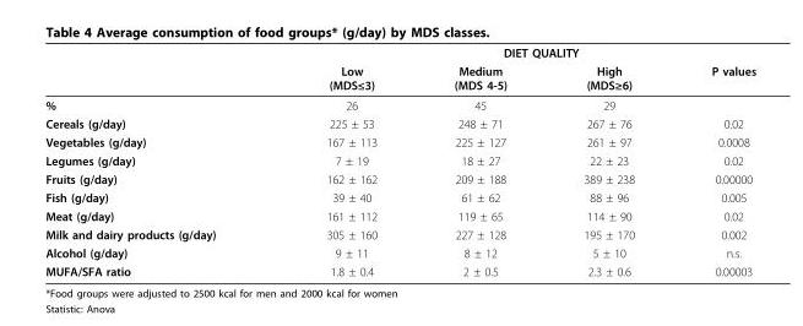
<table><thead><tr><td rowspan="2"></td><td colspan="4">DIET QUALITY</td></tr><tr><td>Low (MDS≤3)</td><td>Medium (MDS 4-5)</td><td>High (MDS≥6)</td><td>P values</td></tr></thead><tbody><tr><td>%</td><td>26</td><td>45</td><td>29</td><td></td></tr><tr><td>Cereals (g/day)</td><td>225 ± 53</td><td>248 ± 71</td><td>267 ± 76</td><td>0.02</td></tr><tr><td>Vegetables (g/day)</td><td>167 ± 113</td><td>225 ± 127</td><td>261 ± 97</td><td>0.0008</td></tr><tr><td>Legumes (g/day)</td><td>7 ± 19</td><td>18 ± 27</td><td>22 ± 23</td><td>0.02</td></tr><tr><td>Fruits (g/day)</td><td>162 ± 162</td><td>209 ± 188</td><td>389 ± 238</td><td>0.00000</td></tr><tr><td>Fish (g/day)</td><td>39 ± 40</td><td>61 ± 62</td><td>88 ± 96</td><td>0.005</td></tr><tr><td>Meat (g/day)</td><td>161 ± 112</td><td>119 ± 65</td><td>114 ± 90</td><td>0.02</td></tr><tr><td>Milk and dairy products (g/day)</td><td>305 ± 160</td><td>227 ± 128</td><td>195 ± 170</td><td>0.002</td></tr><tr><td>Alcohol (g/day)</td><td>9 ± 11</td><td>8 ± 12</td><td>5 ± 10</td><td>n.s.</td></tr><tr><td>MUFA/SFA ratio</td><td>1.8 ± 0.4</td><td>2 ± 0.5</td><td>2.3 ± 0.6</td><td>0.00003</td></tr></tbody></table>